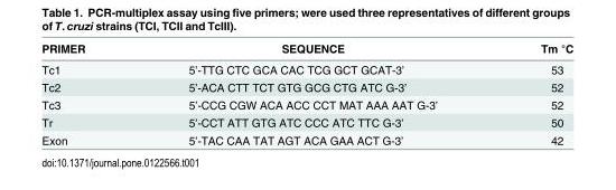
<table><thead><tr><td>PRIMER</td><td>SEQUENCE</td><td>Tm °C</td></tr></thead><tbody><tr><td>Tc1</td><td>5’-TTG CTC GCA CAC TCG GCT GCAT-3’</td><td>53</td></tr><tr><td>Tc2</td><td>5’-ACA CTT TCT GTG GCG CTG ATC G-3’</td><td>52</td></tr><tr><td>Tc3</td><td>5’-CCG CGW ACA ACC CCT MAT AAA AAT G-3’</td><td>52</td></tr><tr><td>Tr</td><td>5’-CCT ATT GTG ATC CCC ATC TTC G-3’</td><td>50</td></tr><tr><td>Exon</td><td>5’-TAC CAA TAT AGT ACA GAA ACT G-3’</td><td>42</td></tr></tbody></table>